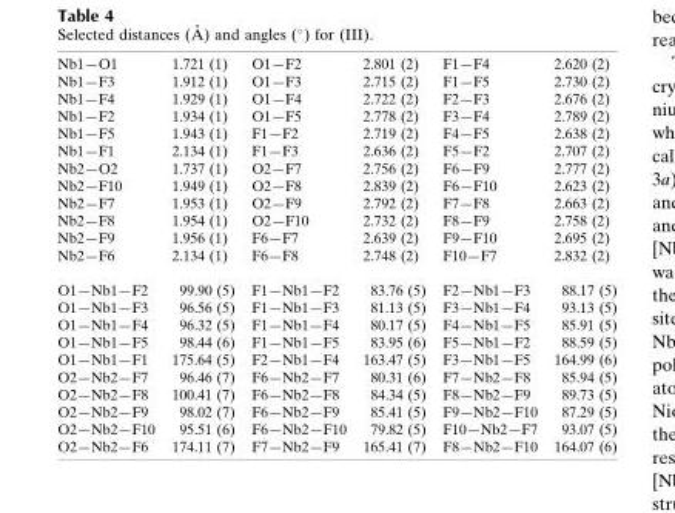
<table><tbody><tr><td>Nb1—O1</td><td>1.721 (1)</td><td>O1—F2</td><td>2.801 (2)</td><td>F1—F4</td><td>2.620 (2)</td></tr><tr><td>Nb1—F3</td><td>1.912 (1)</td><td>O1—F3</td><td>2.715 (2)</td><td>F1—F5</td><td>2.730 (2)</td></tr><tr><td>Nb1—F4</td><td>1.929 (1)</td><td>O1—F4</td><td>2.722 (2)</td><td>F2—F3</td><td>2.676 (2)</td></tr><tr><td>Nb1—F2</td><td>1.934 (1)</td><td>O1—F5</td><td>2.778 (2)</td><td>F3—F4</td><td>2.789 (2)</td></tr><tr><td>Nb1—F5</td><td>1.943 (1)</td><td>F1—F2</td><td>2.719 (2)</td><td>F4—F5</td><td>2.638 (2)</td></tr><tr><td>Nb1—F1</td><td>2.134 (1)</td><td>F1—F3</td><td>2.636 (2)</td><td>F5—F2</td><td>2.707 (2)</td></tr><tr><td>Nb2—O2</td><td>1.737 (1)</td><td>O2—F7</td><td>2.756 (2)</td><td>F6—F9</td><td>2.777 (2)</td></tr><tr><td>Nb2—F10</td><td>1.949 (1)</td><td>O2—F8</td><td>2.839 (2)</td><td>F6—F10</td><td>2.623 (2)</td></tr><tr><td>Nb2—F7</td><td>1.953 (1)</td><td>O2—F9</td><td>2.792 (2)</td><td>F7—F8</td><td>2.663 (2)</td></tr><tr><td>Nb2—F8</td><td>1.954 (1)</td><td>O2—F10</td><td>2.732 (2)</td><td>F8—F9</td><td>2.758 (2)</td></tr><tr><td>Nb2—F9</td><td>1.956 (1)</td><td>F6—F7</td><td>2.639 (2)</td><td>F9—F10</td><td>2.695 (2)</td></tr><tr><td>Nb2—F6</td><td>2.134 (1)</td><td>F6—F8</td><td>2.748 (2)</td><td>F10—F7</td><td>2.832 (2)</td></tr><tr><td>O1—Nb1—F2</td><td>99.90 (5)</td><td>F1—Nb1—F2</td><td>83.76 (5)</td><td>F2—Nb1—F3</td><td>88.17 (5)</td></tr><tr><td>O1—Nb1—F3</td><td>96.56 (5)</td><td>F1—Nb1—F3</td><td>81.13 (5)</td><td>F3—Nb1—F4</td><td>93.13 (5)</td></tr><tr><td>O1—Nb1—F4</td><td>96.32 (5)</td><td>F1—Nb1—F4</td><td>80.17 (5)</td><td>F4—Nb1—F5</td><td>85.91 (5)</td></tr><tr><td>O1—Nb1—F5</td><td>98.44 (6)</td><td>F1—Nb1—F5</td><td>83.95 (6)</td><td>F5—Nb1—F2</td><td>88.59 (5)</td></tr><tr><td>O1—Nb1—F1</td><td>175.64 (5)</td><td>F2—Nb1—F4</td><td>163.47 (5)</td><td>F3—Nb1—F5</td><td>164.99 (6)</td></tr><tr><td>O2—Nb2—F7</td><td>96.46 (7)</td><td>F6—Nb2—F7</td><td>80.31 (6)</td><td>F7—Nb2—F8</td><td>85.94 (5)</td></tr><tr><td>O2—Nb2—F8</td><td>100.41 (7)</td><td>F6—Nb2—F8</td><td>84.34 (5)</td><td>F8—Nb2—F9</td><td>89.73 (5)</td></tr><tr><td>O2—Nb2—F9</td><td>98.02 (7)</td><td>F6—Nb2—F9</td><td>85.41 (5)</td><td>F9—Nb2—F10</td><td>87.29 (5)</td></tr><tr><td>O2—Nb2—F10</td><td>95.51 (6)</td><td>F6—Nb2—F10</td><td>79.82 (5)</td><td>F10—Nb2—F7</td><td>93.07 (5)</td></tr><tr><td>O2—Nb2—F6</td><td>174.11 (7)</td><td>F7—Nb2—F9</td><td>165.41 (7)</td><td>F8—Nb2—F10</td><td>164.07 (6)</td></tr></tbody></table>